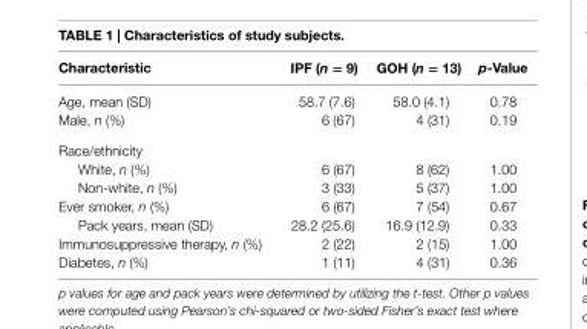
<table><thead><tr><td>characteristic</td><td>iPF (n = 9)</td><td>gOh (n = 13)</td><td>p-Value</td></tr></thead><tbody><tr><td>Age, mean (SD)</td><td>58.7 (7.6)</td><td>58.0 (4.1)</td><td>0.78</td></tr><tr><td>Male, n (%)</td><td>6 (67)</td><td>4 (31)</td><td>0.19</td></tr><tr><td colspan="4">Race/ethnicity</td></tr><tr><td>White, n (%)</td><td>6 (67)</td><td>8 (62)</td><td>1.00</td></tr><tr><td>Non-white, n (%)</td><td>3 (33)</td><td>5 (37)</td><td>1.00</td></tr><tr><td>Ever smoker, n (%)</td><td>6 (67)</td><td>7 (54)</td><td>0.67</td></tr><tr><td>Pack years, mean (SD)</td><td>28.2 (25.6)</td><td>16.9 (12.9)</td><td>0.33</td></tr><tr><td>Immunosuppressive therapy, n (%)</td><td>2 (22)</td><td>2 (15)</td><td>1.00</td></tr><tr><td>Diabetes, n (%)</td><td>1 (11)</td><td>4 (31)</td><td>0.36</td></tr></tbody></table>